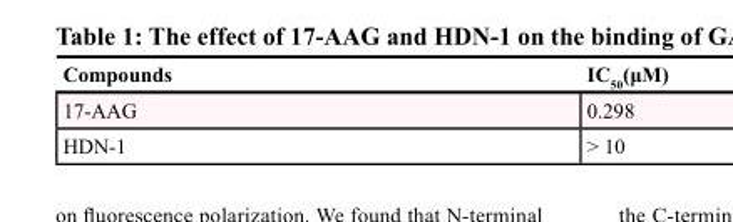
<table><thead><tr><td>Compounds</td><td>IC<sub>50</sub>(μM)</td></tr></thead><tbody><tr><td>17-AAG</td><td>0.298</td></tr><tr><td>HDN-1</td><td>&gt; 10</td></tr></tbody></table>